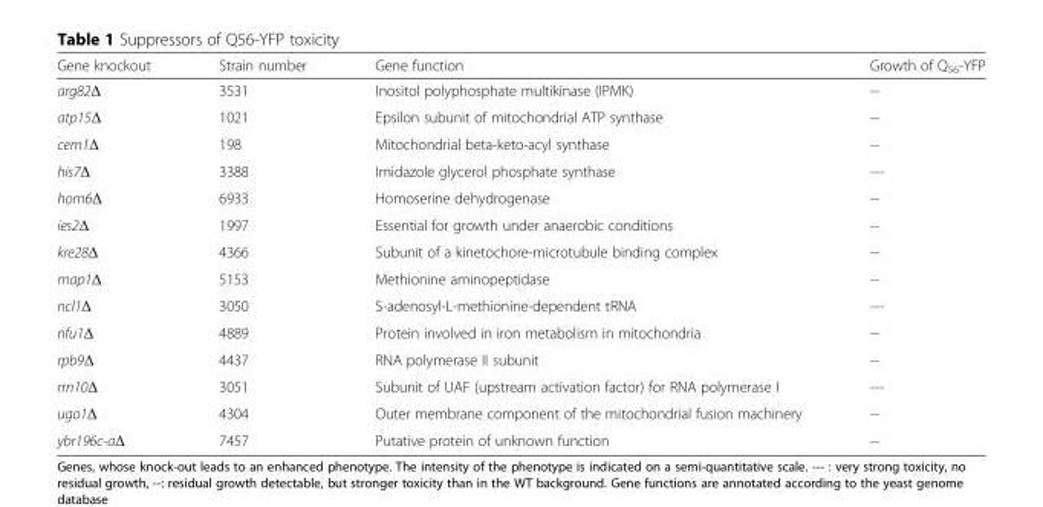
<table><thead><tr><td>Gene knockout</td><td>Strain number</td><td>Gene function</td><td>Growth of Q<sub>56</sub>-YFP</td></tr></thead><tbody><tr><td>arg82Δ</td><td>3531</td><td>Inositol polyphosphate multikinase (IPMK)</td><td>--</td></tr><tr><td>atp15Δ</td><td>1021</td><td>Epsilon subunit of mitochondrial ATP synthase</td><td>--</td></tr><tr><td>cem1Δ</td><td>198</td><td>Mitochondrial beta-keto-acyl synthase</td><td>--</td></tr><tr><td>his7Δ</td><td>3388</td><td>Imidazole glycerol phosphate synthase</td><td>---</td></tr><tr><td>hom6Δ</td><td>6933</td><td>Homoserine dehydrogenase</td><td>--</td></tr><tr><td>ies2Δ</td><td>1997</td><td>Essential for growth under anaerobic conditions</td><td>--</td></tr><tr><td>kre28Δ</td><td>4366</td><td>Subunit of a kinetochore-microtubule binding complex</td><td>--</td></tr><tr><td>map1Δ</td><td>5153</td><td>Methionine aminopeptidase</td><td>--</td></tr><tr><td>ncl1Δ</td><td>3050</td><td>S-adenosyl-L-methionine-dependent tRNA</td><td>---</td></tr><tr><td>nfu1Δ</td><td>4889</td><td>Protein involved in iron metabolism in mitochondria</td><td>--</td></tr><tr><td>rpb9Δ</td><td>4437</td><td>RNA polymerase II subunit</td><td>--</td></tr><tr><td>rrn10Δ</td><td>3051</td><td>Subunit of UAF (upstream activation factor) for RNA polymerase I</td><td>---</td></tr><tr><td>ugo1Δ</td><td>4304</td><td>Outer membrane component of the mitochondrial fusion machinery</td><td>--</td></tr><tr><td>ybr196c-aΔ</td><td>7457</td><td>Putative protein of unknown function</td><td>--</td></tr></tbody></table>